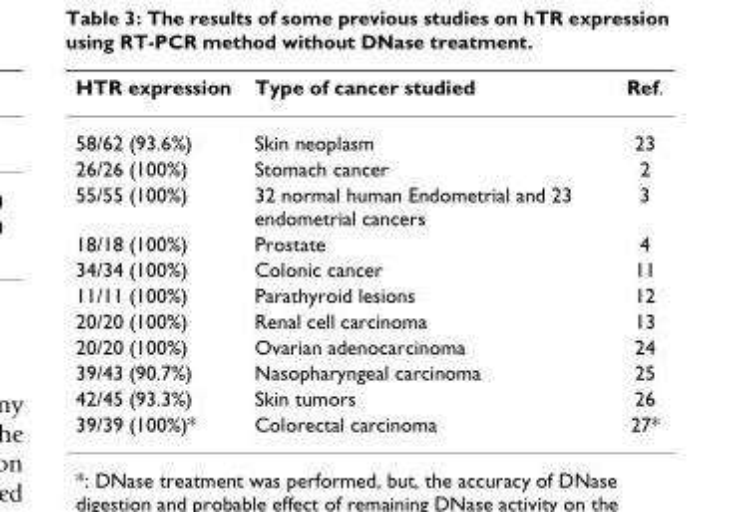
<table><thead><tr><td>HTR expression</td><td>Type of cancer studied</td><td>Ref.</td></tr></thead><tbody><tr><td>58/62 (93.6%)</td><td>Skin neoplasm</td><td>23</td></tr><tr><td>26/26 (100%)</td><td>Stomach cancer</td><td>2</td></tr><tr><td>55/55 (100%)</td><td>32 normal human Endometrial and 23 endometrial cancers</td><td>3</td></tr><tr><td>18/18 (100%)</td><td>Prostate</td><td>4</td></tr><tr><td>34/34 (100%)</td><td>Colonic cancer</td><td>11</td></tr><tr><td>11/11 (100%)</td><td>Parathyroid lesions</td><td>12</td></tr><tr><td>20/20 (100%)</td><td>Renal cell carcinoma</td><td>13</td></tr><tr><td>20/20 (100%)</td><td>Ovarian adenocarcinoma</td><td>24</td></tr><tr><td>39/43 (90.7%)</td><td>Nasopharyngeal carcinoma</td><td>25</td></tr><tr><td>42/45 (93.3%)</td><td>Skin tumors</td><td>26</td></tr><tr><td>39/39 (100%)*</td><td>Colorectal carcinoma</td><td>27*</td></tr></tbody></table>